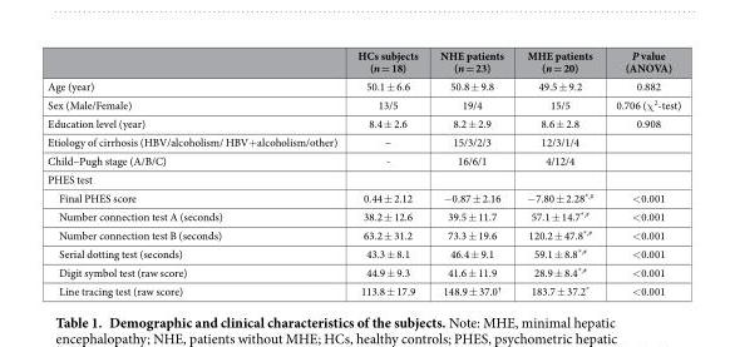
<table><thead><tr><td></td><td>HCs subjects (n = 18)</td><td>NHE patients (n = 23)</td><td>MHE patients (n = 20)</td><td>P value (ANOVA)</td></tr></thead><tbody><tr><td>Age (year)</td><td>50.1 ± 6.6</td><td>50.8 ± 9.8</td><td>49.5 ± 9.2</td><td>0.882</td></tr><tr><td>Sex (Male/Female)</td><td>13/5</td><td>19/4</td><td>15/5</td><td>0.706 (χ <sup>2</sup>-test)</td></tr><tr><td>Education level (year)</td><td>8.4 ± 2.6</td><td>8.2 ± 2.9</td><td>8.6 ± 2.8</td><td>0.908</td></tr><tr><td>Etiology of cirrhosis (HBV/alcoholism/ HBV+ alcoholism/other)</td><td>–</td><td>15/3/2/3</td><td>12/3/1/4</td><td></td></tr><tr><td>Child–Pugh stage (A/B/C)</td><td>-</td><td>16/6/1</td><td>4/12/4</td><td></td></tr><tr><td colspan="5">PHES test</td></tr><tr><td>Final PHES score</td><td>0.44 ± 2.12</td><td>− 0.87 ± 2.16</td><td>− 7.80 ± 2.28<sup>*,#</sup></td><td>&lt; 0.001</td></tr><tr><td>Number connection test A (seconds)</td><td>38.2 ± 12.6</td><td>39.5 ± 11.7</td><td>57.1 ± 14.7<sup>*,#</sup></td><td>&lt; 0.001</td></tr><tr><td>Number connection test B (seconds)</td><td>63.2 ± 31.2</td><td>73.3 ± 19.6</td><td>120.2 ± 47.8<sup>*,#</sup></td><td>&lt; 0.001</td></tr><tr><td>Serial dotting test (seconds)</td><td>43.3 ± 8.1</td><td>46.4 ± 9.1</td><td>59.1 ± 8.8<sup>*,#</sup></td><td>&lt; 0.001</td></tr><tr><td>Digit symbol test (raw score)</td><td>44.9 ± 9.3</td><td>41.6 ± 11.9</td><td>28.9 ± 8.4<sup>*,#</sup></td><td>&lt; 0.001</td></tr><tr><td>Line tracing test (raw score)</td><td>113.8 ± 17.9</td><td>148.9 ± 37.0<sup>†</sup></td><td>183.7 ± 37.2*</td><td>&lt; 0.001</td></tr></tbody></table>